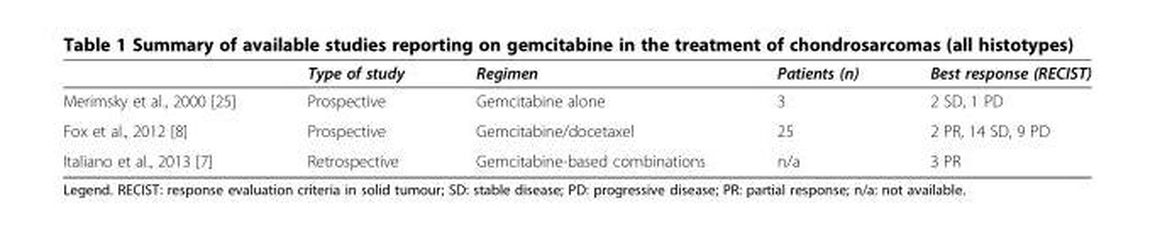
<table><thead><tr><td></td><td>Type of study</td><td>Regimen</td><td>Patients (n)</td><td>Best response (RECIST)</td></tr></thead><tbody><tr><td>Merimsky et al., 2000 [25]</td><td>Prospective</td><td>Gemcitabine alone</td><td>3</td><td>2 SD, 1 PD</td></tr><tr><td>Fox et al., 2012 [8]</td><td>Prospective</td><td>Gemcitabine/docetaxel</td><td>25</td><td>2 PR, 14 SD, 9 PD</td></tr><tr><td>Italiano et al., 2013 [7]</td><td>Retrospective</td><td>Gemcitabine-based combinations</td><td>n/a</td><td>3 PR</td></tr></tbody></table>